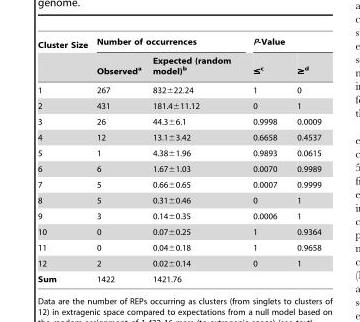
<table><thead><tr><td rowspan="2">Cluster Size</td><td colspan="2">Number of occurrences</td><td colspan="2">P-Value</td></tr><tr><td>Observed<sup>a</sup></td><td>Expected (random model)<sup>b</sup></td><td>≤<sup>c</sup></td><td>≥<sup>d</sup></td></tr></thead><tbody><tr><td>1</td><td>267</td><td>832±22.24</td><td>1</td><td>0</td></tr><tr><td>2</td><td>431</td><td>181.4±11.12</td><td>0</td><td>1</td></tr><tr><td>3</td><td>26</td><td>44.3±6.1</td><td>0.9998</td><td>0.0009</td></tr><tr><td>4</td><td>12</td><td>13.1±3.42</td><td>0.6658</td><td>0.4537</td></tr><tr><td>5</td><td>1</td><td>4.38±1.96</td><td>0.9893</td><td>0.0615</td></tr><tr><td>6</td><td>6</td><td>1.67±1.03</td><td>0.0070</td><td>0.9989</td></tr><tr><td>7</td><td>5</td><td>0.66±0.65</td><td>0.0007</td><td>0.9999</td></tr><tr><td>8</td><td>5</td><td>0.31±0.46</td><td>0</td><td>1</td></tr><tr><td>9</td><td>3</td><td>0.14±0.35</td><td>0.0006</td><td>1</td></tr><tr><td>10</td><td>0</td><td>0.07±0.25</td><td>1</td><td>0.9364</td></tr><tr><td>11</td><td>0</td><td>0.04±0.18</td><td>1</td><td>0.9658</td></tr><tr><td>12</td><td>2</td><td>0.02±0.14</td><td>0</td><td>1</td></tr><tr><td>Sum</td><td>1422</td><td>1421.76</td><td></td><td></td></tr></tbody></table>